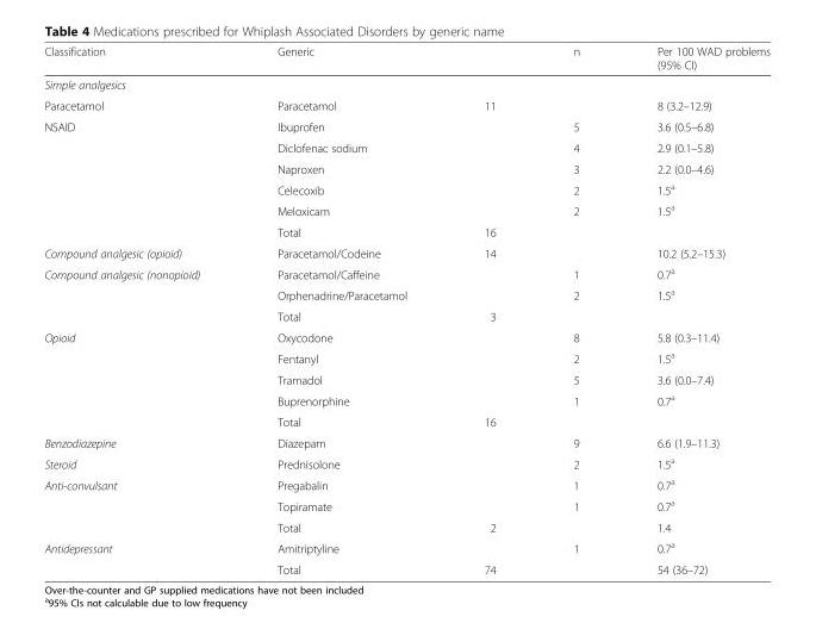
<table><thead><tr><td>Classification</td><td>Generic</td><td></td><td>n</td><td>Per 100 WAD problems (95% CI)</td></tr></thead><tbody><tr><td colspan="5">Simple analgesics</td></tr><tr><td>Paracetamol</td><td>Paracetamol</td><td>11</td><td></td><td>8 (3.2–12.9)</td></tr><tr><td rowspan="6">NSAID</td><td>Ibuprofen</td><td></td><td>5</td><td>3.6 (0.5–6.8)</td></tr><tr><td>Diclofenac sodium</td><td></td><td>4</td><td>2.9 (0.1–5.8)</td></tr><tr><td>Naproxen</td><td></td><td>3</td><td>2.2 (0.0–4.6)</td></tr><tr><td>Celecoxib</td><td></td><td>2</td><td>1.5<sup>a</sup></td></tr><tr><td>Meloxicam</td><td></td><td>2</td><td>1.5<sup>a</sup></td></tr><tr><td>Total</td><td>16</td><td></td><td></td></tr><tr><td>Compound analgesic (opioid)</td><td>Paracetamol/Codeine</td><td>14</td><td></td><td>10.2 (5.2–15.3)</td></tr><tr><td rowspan="3">Compound analgesic (nonopioid)</td><td>Paracetamol/Caffeine</td><td></td><td>1</td><td>0.7<sup>a</sup></td></tr><tr><td>Orphenadrine/Paracetamol</td><td></td><td>2</td><td>1.5<sup>a</sup></td></tr><tr><td>Total</td><td>3</td><td></td><td></td></tr><tr><td rowspan="5">Opioid</td><td>Oxycodone</td><td></td><td>8</td><td>5.8 (0.3–11.4)</td></tr><tr><td>Fentanyl</td><td></td><td>2</td><td>1.5<sup>a</sup></td></tr><tr><td>Tramadol</td><td></td><td>5</td><td>3.6 (0.0–7.4)</td></tr><tr><td>Buprenorphine</td><td></td><td>1</td><td>0.7<sup>a</sup></td></tr><tr><td>Total</td><td>16</td><td></td><td></td></tr><tr><td>Benzodiazepine</td><td>Diazepam</td><td></td><td>9</td><td>6.6 (1.9–11.3)</td></tr><tr><td>Steroid</td><td>Prednisolone</td><td></td><td>2</td><td>1.5<sup>a</sup></td></tr><tr><td rowspan="3">Anti-convulsant</td><td>Pregabalin</td><td></td><td>1</td><td>0.7<sup>a</sup></td></tr><tr><td>Topiramate</td><td></td><td>1</td><td>0.7<sup>a</sup></td></tr><tr><td>Total</td><td>2</td><td></td><td>1.4</td></tr><tr><td rowspan="2">Antidepressant</td><td>Amitriptyline</td><td></td><td>1</td><td>0.7<sup>a</sup></td></tr><tr><td>Total</td><td>74</td><td></td><td>54 (36–72)</td></tr></tbody></table>